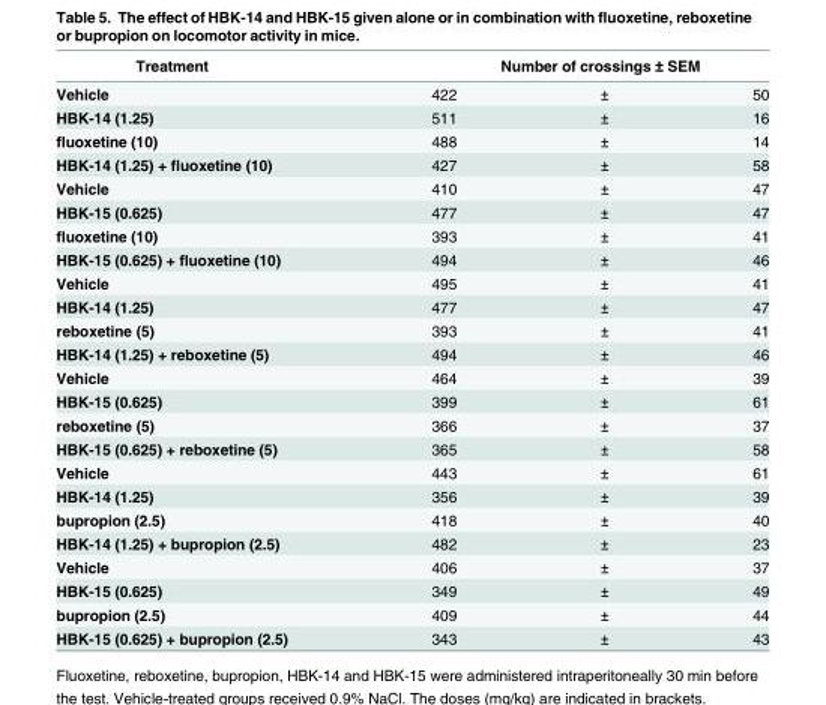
<table><thead><tr><td rowspan="2">Treatment Vehicle</td><td colspan="3">Number of crossings ± SEM</td></tr><tr><td>422</td><td>±</td><td>50</td></tr></thead><tbody><tr><td>HBK-14 (1.25)</td><td>511</td><td>±</td><td>16</td></tr><tr><td>fluoxetine (10)</td><td>488</td><td>±</td><td>14</td></tr><tr><td>HBK-14 (1.25) + fluoxetine (10)</td><td>427</td><td>±</td><td>58</td></tr><tr><td>Vehicle</td><td>410</td><td>±</td><td>47</td></tr><tr><td>HBK-15 (0.625)</td><td>477</td><td>±</td><td>47</td></tr><tr><td>fluoxetine (10)</td><td>393</td><td>±</td><td>41</td></tr><tr><td>HBK-15 (0.625) + fluoxetine (10)</td><td>494</td><td>±</td><td>46</td></tr><tr><td>Vehicle</td><td>495</td><td>±</td><td>41</td></tr><tr><td>HBK-14 (1.25)</td><td>477</td><td>±</td><td>47</td></tr><tr><td>reboxetine (5)</td><td>393</td><td>±</td><td>41</td></tr><tr><td>HBK-14 (1.25) + reboxetine (5)</td><td>494</td><td>±</td><td>46</td></tr><tr><td>Vehicle</td><td>464</td><td>±</td><td>39</td></tr><tr><td>HBK-15 (0.625)</td><td>399</td><td>±</td><td>61</td></tr><tr><td>reboxetine (5)</td><td>366</td><td>±</td><td>37</td></tr><tr><td>HBK-15 (0.625) + reboxetine (5)</td><td>365</td><td>±</td><td>58</td></tr><tr><td>Vehicle</td><td>443</td><td>±</td><td>61</td></tr><tr><td>HBK-14 (1.25)</td><td>356</td><td>±</td><td>39</td></tr><tr><td>bupropion (2.5)</td><td>418</td><td>±</td><td>40</td></tr><tr><td>HBK-14 (1.25) + bupropion (2.5)</td><td>482</td><td>±</td><td>23</td></tr><tr><td>Vehicle</td><td>406</td><td>±</td><td>37</td></tr><tr><td>HBK-15 (0.625)</td><td>349</td><td>±</td><td>49</td></tr><tr><td>bupropion (2.5)</td><td>409</td><td>±</td><td>44</td></tr><tr><td>HBK-15 (0.625) + bupropion (2.5)</td><td>343</td><td>±</td><td>43</td></tr></tbody></table>